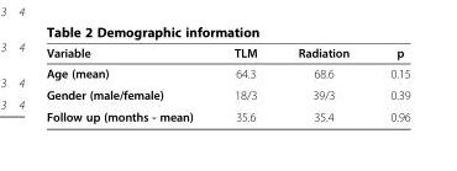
<table><thead><tr><td>Variable</td><td>TLM</td><td>Radiation</td><td>p</td></tr></thead><tbody><tr><td>Age (mean)</td><td>64.3</td><td>68.6</td><td>0.15</td></tr><tr><td>Gender (male/female)</td><td>18/3</td><td>39/3</td><td>0.39</td></tr><tr><td>Follow up (months - mean)</td><td>35.6</td><td>35.4</td><td>0.96</td></tr></tbody></table>